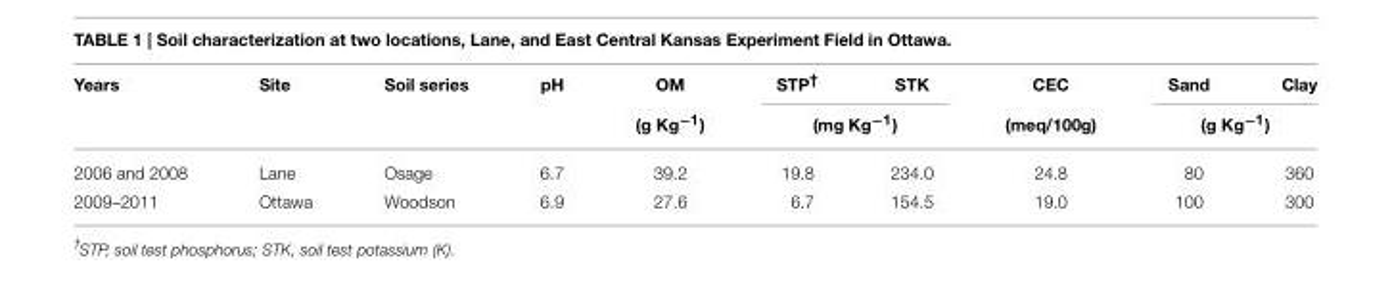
<table><thead><tr><td rowspan="2">Years</td><td rowspan="2">Site</td><td rowspan="2">Soil series</td><td rowspan="2">pH</td><td rowspan="2">OM (g Kg<sup>−1</sup>)</td><td>STP<sup>†</sup></td><td>STK</td><td rowspan="2">CEC (meq/100g)</td><td>Sand</td><td>Clay</td></tr><tr><td colspan="2">(mg Kg<sup>−1</sup>)</td><td colspan="2">(g Kg<sup>−1</sup>)</td></tr></thead><tbody><tr><td>2006 and 2008</td><td>Lane</td><td>Osage</td><td>6.7</td><td>39.2</td><td>19.8</td><td>234.0</td><td>24.8</td><td>80</td><td>360</td></tr><tr><td>2009–2011</td><td>Ottawa</td><td>Woodson</td><td>6.9</td><td>27.6</td><td>6.7</td><td>154.5</td><td>19.0</td><td>100</td><td>300</td></tr></tbody></table>